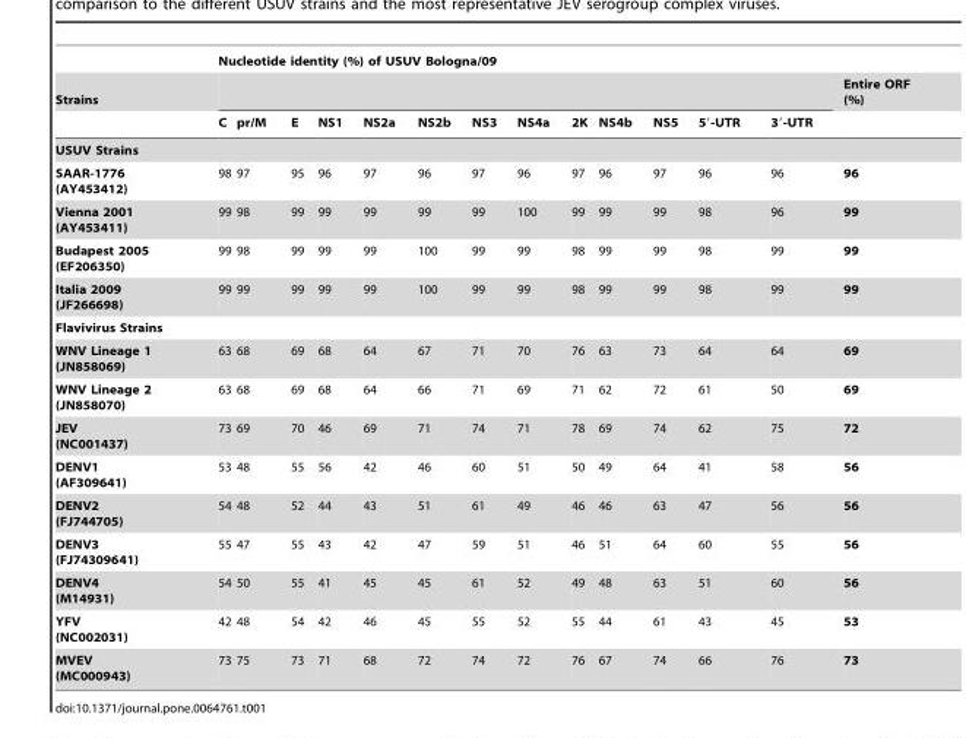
<table><thead><tr><td rowspan="3">Strains</td><td colspan="13">Nucleotide identity (%) of USUV Bologna/09</td><td rowspan="3">Entire ORF (%)</td></tr><tr><td rowspan="2">C</td><td rowspan="2">pr/M</td><td rowspan="2">E</td><td rowspan="2">NS1</td><td rowspan="2">NS2a</td><td rowspan="2">NS2b</td><td rowspan="2">NS3</td><td rowspan="2">NS4a</td><td rowspan="2">2K</td><td rowspan="2">NS4b</td><td rowspan="2">NS5</td><td rowspan="2">5′-UTR</td><td rowspan="2">3′-UTR</td></tr><tr></tr></thead><tbody><tr><td colspan="15">USUV Strains</td></tr><tr><td>SAAR-1776 (AY453412)</td><td>98</td><td>97</td><td>95</td><td>96</td><td>97</td><td>96</td><td>97</td><td>96</td><td>97</td><td>96</td><td>97</td><td>96</td><td>96</td><td>96</td></tr><tr><td>Vienna 2001 (AY453411)</td><td>99</td><td>98</td><td>99</td><td>99</td><td>99</td><td>99</td><td>99</td><td>100</td><td>99</td><td>99</td><td>99</td><td>98</td><td>96</td><td>99</td></tr><tr><td>Budapest 2005 (EF206350)</td><td>99</td><td>98</td><td>99</td><td>99</td><td>99</td><td>100</td><td>99</td><td>99</td><td>98</td><td>99</td><td>99</td><td>98</td><td>99</td><td>99</td></tr><tr><td>Italia 2009 (JF266698)</td><td>99</td><td>99</td><td>99</td><td>99</td><td>99</td><td>100</td><td>99</td><td>99</td><td>98</td><td>99</td><td>99</td><td>98</td><td>99</td><td>99</td></tr><tr><td colspan="15">Flavivirus Strains</td></tr><tr><td>WNV Lineage 1 (JN858069)</td><td>63</td><td>68</td><td>69</td><td>68</td><td>64</td><td>67</td><td>71</td><td>70</td><td>76</td><td>63</td><td>73</td><td>64</td><td>64</td><td>69</td></tr><tr><td>WNV Lineage 2 (JN858070)</td><td>63</td><td>68</td><td>69</td><td>68</td><td>64</td><td>66</td><td>71</td><td>69</td><td>71</td><td>62</td><td>72</td><td>61</td><td>50</td><td>69</td></tr><tr><td>JEV (NC001437)</td><td>73</td><td>69</td><td>70</td><td>46</td><td>69</td><td>71</td><td>74</td><td>71</td><td>78</td><td>69</td><td>74</td><td>62</td><td>75</td><td>72</td></tr><tr><td>DENV1 (AF309641)</td><td>53</td><td>48</td><td>55</td><td>56</td><td>42</td><td>46</td><td>60</td><td>51</td><td>50</td><td>49</td><td>64</td><td>41</td><td>58</td><td>56</td></tr><tr><td>DENV2 (FJ744705)</td><td>54</td><td>48</td><td>52</td><td>44</td><td>43</td><td>51</td><td>61</td><td>49</td><td>46</td><td>46</td><td>63</td><td>47</td><td>56</td><td>56</td></tr><tr><td>DENV3 (FJ74309641)</td><td>55</td><td>47</td><td>55</td><td>43</td><td>42</td><td>47</td><td>59</td><td>51</td><td>46</td><td>51</td><td>64</td><td>60</td><td>55</td><td>56</td></tr><tr><td>DENV4 (M14931)</td><td>54</td><td>50</td><td>55</td><td>41</td><td>45</td><td>45</td><td>61</td><td>52</td><td>49</td><td>48</td><td>63</td><td>51</td><td>60</td><td>56</td></tr><tr><td>YFV (NC002031)</td><td>42</td><td>48</td><td>54</td><td>42</td><td>46</td><td>45</td><td>55</td><td>52</td><td>55</td><td>44</td><td>61</td><td>43</td><td>45</td><td>53</td></tr><tr><td>MVEV (MC000943)</td><td>73</td><td>75</td><td>73</td><td>71</td><td>68</td><td>72</td><td>74</td><td>72</td><td>76</td><td>67</td><td>74</td><td>66</td><td>76</td><td>73</td></tr></tbody></table>